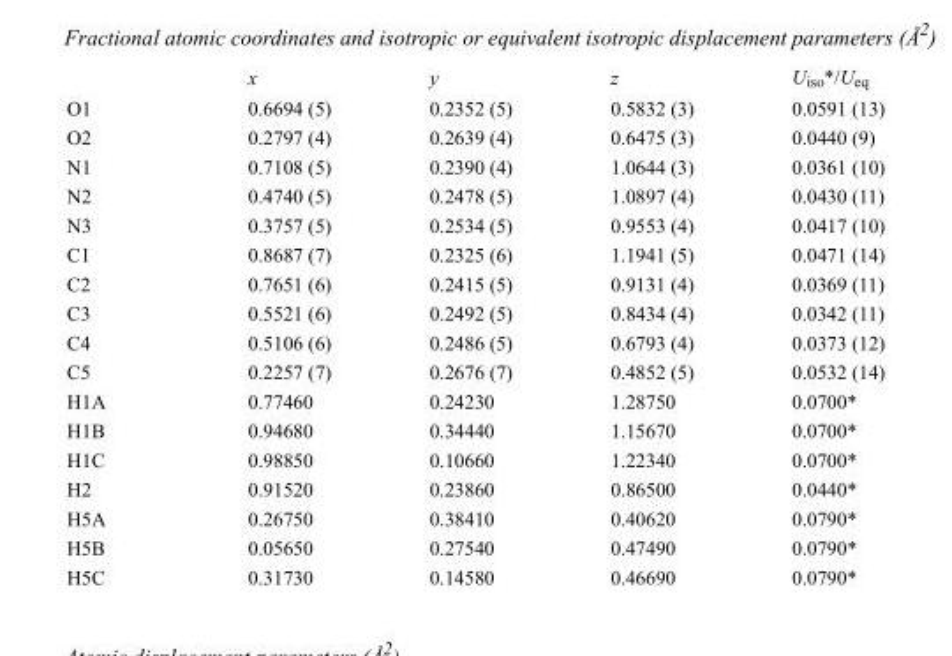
<table><thead><tr><td></td><td>x</td><td>y</td><td>z</td><td>U<sub>iso</sub>*/U<sub>eq</sub></td></tr></thead><tbody><tr><td>O1</td><td>0.6694 (5)</td><td>0.2352 (5)</td><td>0.5832 (3)</td><td>0.0591 (13)</td></tr><tr><td>O2</td><td>0.2797 (4)</td><td>0.2639 (4)</td><td>0.6475 (3)</td><td>0.0440 (9)</td></tr><tr><td>N1</td><td>0.7108 (5)</td><td>0.2390 (4)</td><td>1.0644 (3)</td><td>0.0361 (10)</td></tr><tr><td>N2</td><td>0.4740 (5)</td><td>0.2478 (5)</td><td>1.0897 (4)</td><td>0.0430 (11)</td></tr><tr><td>N3</td><td>0.3757 (5)</td><td>0.2534 (5)</td><td>0.9553 (4)</td><td>0.0417 (10)</td></tr><tr><td>C1</td><td>0.8687 (7)</td><td>0.2325 (6)</td><td>1.1941 (5)</td><td>0.0471 (14)</td></tr><tr><td>C2</td><td>0.7651 (6)</td><td>0.2415 (5)</td><td>0.9131 (4)</td><td>0.0369 (11)</td></tr><tr><td>C3</td><td>0.5521 (6)</td><td>0.2492 (5)</td><td>0.8434 (4)</td><td>0.0342 (11)</td></tr><tr><td>C4</td><td>0.5106 (6)</td><td>0.2486 (5)</td><td>0.6793 (4)</td><td>0.0373 (12)</td></tr><tr><td>C5</td><td>0.2257 (7)</td><td>0.2676 (7)</td><td>0.4852 (5)</td><td>0.0532 (14)</td></tr><tr><td>H1A</td><td>0.77460</td><td>0.24230</td><td>1.28750</td><td>0.0700*</td></tr><tr><td>H1B</td><td>0.94680</td><td>0.34440</td><td>1.15670</td><td>0.0700*</td></tr><tr><td>H1C</td><td>0.98850</td><td>0.10660</td><td>1.22340</td><td>0.0700*</td></tr><tr><td>H2</td><td>0.91520</td><td>0.23860</td><td>0.86500</td><td>0.0440*</td></tr><tr><td>H5A</td><td>0.26750</td><td>0.38410</td><td>0.40620</td><td>0.0790*</td></tr><tr><td>H5B</td><td>0.05650</td><td>0.27540</td><td>0.47490</td><td>0.0790*</td></tr><tr><td>H5C</td><td>0.31730</td><td>0.14580</td><td>0.46690</td><td>0.0790*</td></tr></tbody></table>